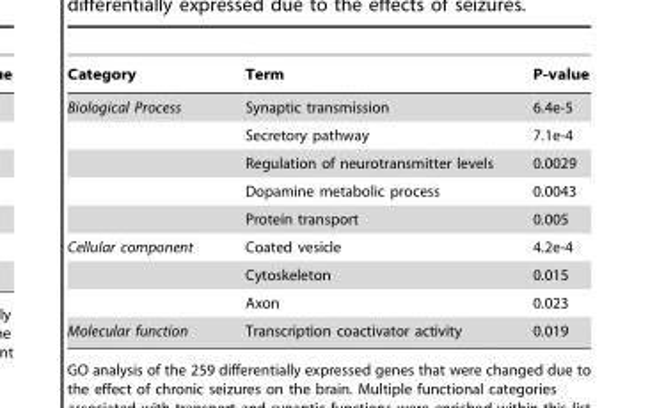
<table><thead><tr><td>Category</td><td>Term</td><td>P-value</td></tr></thead><tbody><tr><td rowspan="5">Biological Process</td><td>Synaptic transmission</td><td>6.4e-5</td></tr><tr><td>Secretory pathway</td><td>7.1e-4</td></tr><tr><td>Regulation of neurotransmitter levels</td><td>0.0029</td></tr><tr><td>Dopamine metabolic process</td><td>0.0043</td></tr><tr><td>Protein transport</td><td>0.005</td></tr><tr><td rowspan="3">Cellular component</td><td>Coated vesicle</td><td>4.2e-4</td></tr><tr><td>Cytoskeleton</td><td>0.015</td></tr><tr><td>Axon</td><td>0.023</td></tr><tr><td>Molecular function</td><td>Transcription coactivator activity</td><td>0.019</td></tr></tbody></table>